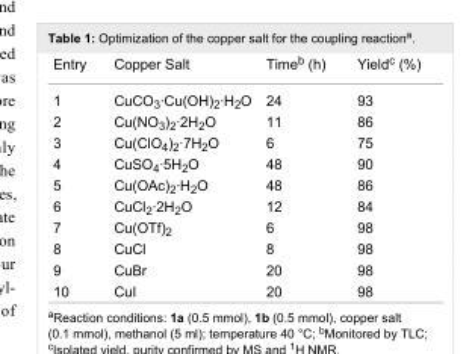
<table><tbody><tr><td>Entry</td><td>Copper Salt</td><td>Time<sup>b</sup> (h)</td><td>Yield<sup>c</sup> (%)</td></tr><tr><td>1</td><td>CuCO<sub>3</sub>·Cu(OH)<sub>2</sub>·H<sub>2</sub>O</td><td>24</td><td>93</td></tr><tr><td>2</td><td>Cu(NO<sub>3</sub>)<sub>2</sub>·2H<sub>2</sub>O</td><td>11</td><td>86</td></tr><tr><td>3</td><td>Cu(ClO<sub>4</sub>)<sub>2</sub>·7H<sub>2</sub>O</td><td>6</td><td>75</td></tr><tr><td>4</td><td>CuSO<sub>4</sub>·5H<sub>2</sub>O</td><td>48</td><td>90</td></tr><tr><td>5</td><td>Cu(OAc)<sub>2</sub>·H<sub>2</sub>O</td><td>48</td><td>86</td></tr><tr><td>6</td><td>CuCl<sub>2</sub>·2H<sub>2</sub>O</td><td>12</td><td>84</td></tr><tr><td>7</td><td>Cu(OTf)<sub>2</sub></td><td>6</td><td>98</td></tr><tr><td>8</td><td>CuCl</td><td>8</td><td>98</td></tr><tr><td>9</td><td>CuBr</td><td>20</td><td>98</td></tr><tr><td>10</td><td>CuI</td><td>20</td><td>98</td></tr></tbody></table>